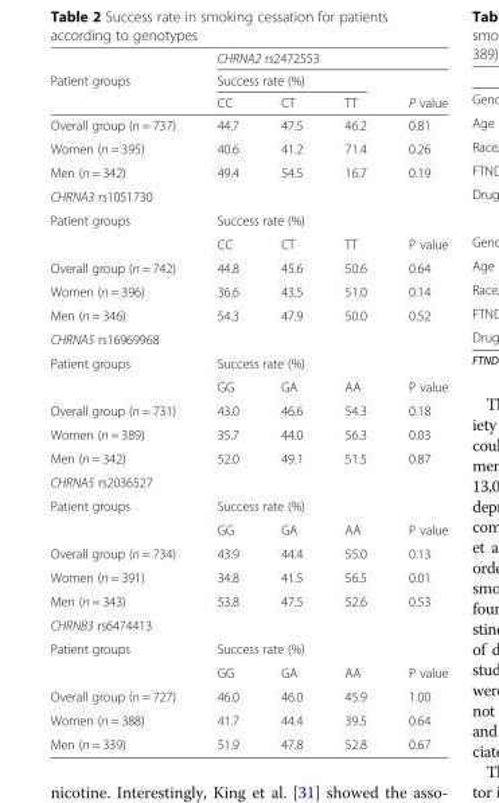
<table><thead><tr><td rowspan="3">Patient groups</td><td colspan="4">CHRNA2 rs2472553</td></tr><tr><td colspan="3">Success rate (%)</td><td rowspan="2">P value</td></tr><tr><td>CC</td><td>CT</td><td>TT</td></tr></thead><tbody><tr><td>Overall group (n = 737)</td><td>44.7</td><td>47.5</td><td>46.2</td><td>0.81</td></tr><tr><td>Women (n = 395)</td><td>40.6</td><td>41.2</td><td>71.4</td><td>0.26</td></tr><tr><td>Men (n = 342)</td><td>49.4</td><td>54.5</td><td>16.7</td><td>0.19</td></tr><tr><td colspan="5">CHRNA3 rs1051730</td></tr><tr><td rowspan="2">Patient groups</td><td colspan="3">Success rate (%)</td><td></td></tr><tr><td>CC</td><td>CT</td><td>TT</td><td>P value</td></tr><tr><td>Overall group (n = 742)</td><td>44.8</td><td>45.6</td><td>50.6</td><td>0.64</td></tr><tr><td>Women (n = 396)</td><td>36.6</td><td>43.5</td><td>51.0</td><td>0.14</td></tr><tr><td>Men (n = 346)</td><td>54.3</td><td>47.9</td><td>50.0</td><td>0.52</td></tr><tr><td colspan="5">CHRNA5 rs16969968</td></tr><tr><td rowspan="2">Patient groups</td><td colspan="3">Success rate (%)</td><td></td></tr><tr><td>GG</td><td>GA</td><td>AA</td><td>P value</td></tr><tr><td>Overall group (n = 731)</td><td>43.0</td><td>46.6</td><td>54.3</td><td>0.18</td></tr><tr><td>Women (n = 389)</td><td>35.7</td><td>44.0</td><td>56.3</td><td>0.03</td></tr><tr><td>Men (n = 342)</td><td>52.0</td><td>49.1</td><td>51.5</td><td>0.87</td></tr><tr><td colspan="5">CHRNA5 rs2036527</td></tr><tr><td rowspan="2">Patient groups</td><td colspan="3">Success rate (%)</td><td></td></tr><tr><td>GG</td><td>GA</td><td>AA</td><td>P value</td></tr><tr><td>Overall group (n = 734)</td><td>43.9</td><td>44.4</td><td>55.0</td><td>0.13</td></tr><tr><td>Women (n = 391)</td><td>34.8</td><td>41.5</td><td>56.5</td><td>0.01</td></tr><tr><td>Men (n = 343)</td><td>53.8</td><td>47.5</td><td>52.6</td><td>0.53</td></tr><tr><td colspan="5">CHRNB3 rs6474413</td></tr><tr><td rowspan="2">Patient groups</td><td colspan="3">Success rate (%)</td><td></td></tr><tr><td>GG</td><td>GA</td><td>AA</td><td>P value</td></tr><tr><td>Overall group (n = 727)</td><td>46.0</td><td>46.0</td><td>45.9</td><td>1.00</td></tr><tr><td>Women (n = 388)</td><td>41.7</td><td>44.4</td><td>39.5</td><td>0.64</td></tr><tr><td>Men (n = 339)</td><td>51.9</td><td>47.8</td><td>52.8</td><td>0.67</td></tr></tbody></table>